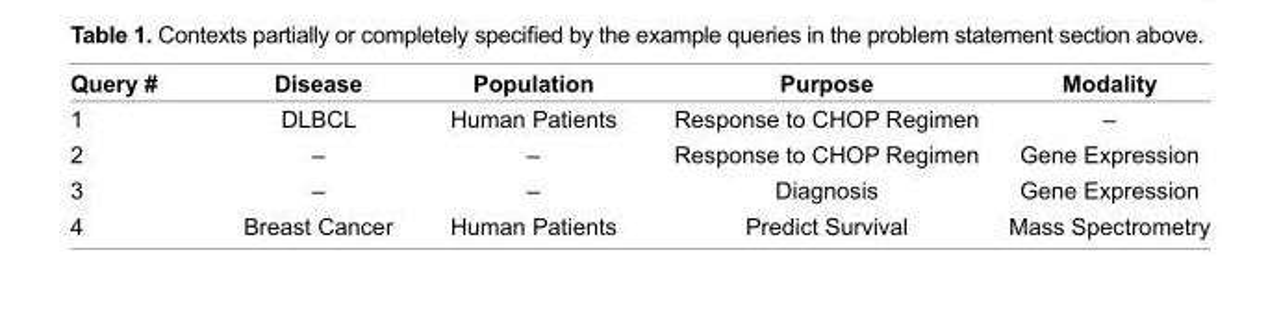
<table><thead><tr><td>Query #</td><td>Disease</td><td>Population</td><td>Purpose</td><td>Modality</td></tr></thead><tbody><tr><td>1</td><td>DLBCL</td><td>Human Patients</td><td>Response to CHOP Regimen</td><td>–</td></tr><tr><td>2</td><td>–</td><td>–</td><td>Response to CHOP Regimen</td><td>Gene Expression</td></tr><tr><td>3</td><td>–</td><td>–</td><td>Diagnosis</td><td>Gene Expression</td></tr><tr><td>4</td><td>Breast Cancer</td><td>Human Patients</td><td>Predict Survival</td><td>Mass Spectrometry</td></tr></tbody></table>